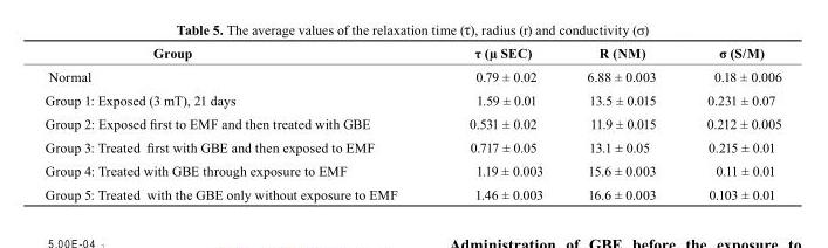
<table><thead><tr><td>Group</td><td>τ (µ sEc)</td><td>r (nM)</td><td>σ (s/M)</td></tr></thead><tbody><tr><td>Normal</td><td>0.79 ± 0.02</td><td>6.88 ± 0.003</td><td>0.18 ± 0.006</td></tr><tr><td>Group 1: Exposed (3 mT), 21 days</td><td>1.59 ± 0.01</td><td>13.5 ± 0.015</td><td>0.231 ± 0.07</td></tr><tr><td>Group 2: Exposed first to EMF and then treated with GBE</td><td>0.531 ± 0.02</td><td>11.9 ± 0.015</td><td>0.212 ± 0.005</td></tr><tr><td>Group 3: Treated first with GBE and then exposed to EMF</td><td>0.717 ± 0.05</td><td>13.1 ± 0.05</td><td>0.215 ± 0.01</td></tr><tr><td>Group 4: Treated with GBE through exposure to EMF</td><td>1.19 ± 0.003</td><td>15.6 ± 0.003</td><td>0.11 ± 0.01</td></tr><tr><td>Group 5: Treated with the GBE only without exposure to EMF</td><td>1.46 ± 0.003</td><td>16.6 ± 0.003</td><td>0.103 ± 0.01</td></tr></tbody></table>